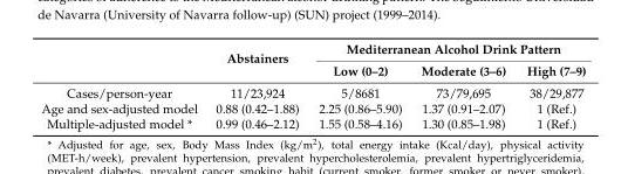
<table><thead><tr><td rowspan="2"></td><td rowspan="2">Abstainers</td><td colspan="3">Mediterranean Alcohol Drink Pattern</td></tr><tr><td>Low (0–2)</td><td>Moderate (3–6)</td><td>High (7–9)</td></tr></thead><tbody><tr><td>Cases/person-year</td><td>11/23,924</td><td>5/8681</td><td>73/79,695</td><td>38/29,877</td></tr><tr><td>Age and sex-adjusted model</td><td>0.88 (0.42–1.88)</td><td>2.25 (0.86–5.90)</td><td>1.37 (0.91–2.07)</td><td>1 (Ref.)</td></tr><tr><td>Multiple-adjusted model *</td><td>0.99 (0.46–2.12)</td><td>1.55 (0.58–4.16)</td><td>1.30 (0.85–1.98)</td><td>1 (Ref.)</td></tr></tbody></table>